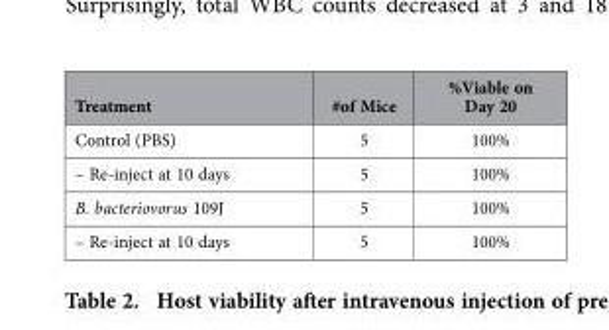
<table><thead><tr><td>Treatment</td><td>#of Mice</td><td>%Viable on Day 20</td></tr></thead><tbody><tr><td>Control (PBS)</td><td>5</td><td>100%</td></tr><tr><td>– Re-inject at 10 days</td><td>5</td><td>100%</td></tr><tr><td>B. bacteriovorus 109J</td><td>5</td><td>100%</td></tr><tr><td>– Re-inject at 10 days</td><td>5</td><td>100%</td></tr></tbody></table>